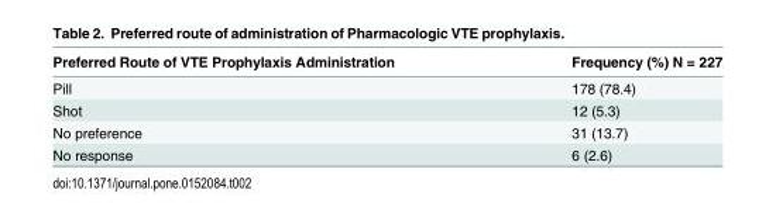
<table><thead><tr><td>Preferred Route of VTE Prophylaxis Administration</td><td>Frequency (%) N = 227</td></tr></thead><tbody><tr><td>Pill</td><td>178 (78.4)</td></tr><tr><td>Shot</td><td>12 (5.3)</td></tr><tr><td>No preference</td><td>31 (13.7)</td></tr><tr><td>No response</td><td>6 (2.6)</td></tr></tbody></table>